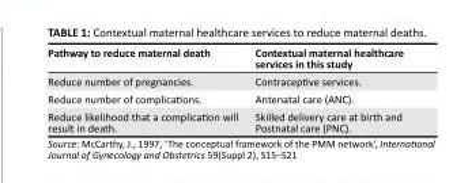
<table><thead><tr><td>Pathway to reduce maternal death</td><td>Contextual maternal healthcare services in this study</td></tr></thead><tbody><tr><td>Reduce number of pregnancies.</td><td>Contraceptive services.</td></tr><tr><td>Reduce number of complications.</td><td>Antenatal care (ANC).</td></tr><tr><td>Reduce likelihood that a complication will result in death.</td><td>Skilled delivery care at birth and Postnatal care (PNC).</td></tr></tbody></table>